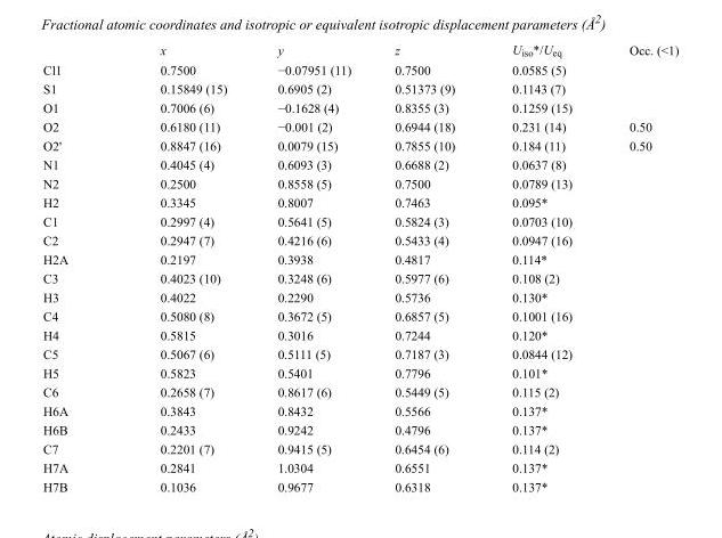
<table><thead><tr><td></td><td>x</td><td>y</td><td>z</td><td>U<sub>iso</sub>*/U<sub>eq</sub></td><td>Occ. (&lt;1)</td></tr></thead><tbody><tr><td>Cl1</td><td>0.7500</td><td>−0.07951 (11)</td><td>0.7500</td><td>0.0585 (5)</td><td></td></tr><tr><td>S1</td><td>0.15849 (15)</td><td>0.6905 (2)</td><td>0.51373 (9)</td><td>0.1143 (7)</td><td></td></tr><tr><td>O1</td><td>0.7006 (6)</td><td>−0.1628 (4)</td><td>0.8355 (3)</td><td>0.1259 (15)</td><td></td></tr><tr><td>O2</td><td>0.6180 (11)</td><td>−0.001 (2)</td><td>0.6944 (18)</td><td>0.231 (14)</td><td>0.50</td></tr><tr><td>O2&#x27;</td><td>0.8847 (16)</td><td>0.0079 (15)</td><td>0.7855 (10)</td><td>0.184 (11)</td><td>0.50</td></tr><tr><td>N1</td><td>0.4045 (4)</td><td>0.6093 (3)</td><td>0.6688 (2)</td><td>0.0637 (8)</td><td></td></tr><tr><td>N2</td><td>0.2500</td><td>0.8558 (5)</td><td>0.7500</td><td>0.0789 (13)</td><td></td></tr><tr><td>H2</td><td>0.3345</td><td>0.8007</td><td>0.7463</td><td>0.095*</td><td></td></tr><tr><td>C1</td><td>0.2997 (4)</td><td>0.5641 (5)</td><td>0.5824 (3)</td><td>0.0703 (10)</td><td></td></tr><tr><td>C2</td><td>0.2947 (7)</td><td>0.4216 (6)</td><td>0.5433 (4)</td><td>0.0947 (16)</td><td></td></tr><tr><td>H2A</td><td>0.2197</td><td>0.3938</td><td>0.4817</td><td>0.114*</td><td></td></tr><tr><td>C3</td><td>0.4023 (10)</td><td>0.3248 (6)</td><td>0.5977 (6)</td><td>0.108 (2)</td><td></td></tr><tr><td>H3</td><td>0.4022</td><td>0.2290</td><td>0.5736</td><td>0.130*</td><td></td></tr><tr><td>C4</td><td>0.5080 (8)</td><td>0.3672 (5)</td><td>0.6857 (5)</td><td>0.1001 (16)</td><td></td></tr><tr><td>H4</td><td>0.5815</td><td>0.3016</td><td>0.7244</td><td>0.120*</td><td></td></tr><tr><td>C5</td><td>0.5067 (6)</td><td>0.5111 (5)</td><td>0.7187 (3)</td><td>0.0844 (12)</td><td></td></tr><tr><td>H5</td><td>0.5823</td><td>0.5401</td><td>0.7796</td><td>0.101*</td><td></td></tr><tr><td>C6</td><td>0.2658 (7)</td><td>0.8617 (6)</td><td>0.5449 (5)</td><td>0.115 (2)</td><td></td></tr><tr><td>H6A</td><td>0.3843</td><td>0.8432</td><td>0.5566</td><td>0.137*</td><td></td></tr><tr><td>H6B</td><td>0.2433</td><td>0.9242</td><td>0.4796</td><td>0.137*</td><td></td></tr><tr><td>C7</td><td>0.2201 (7)</td><td>0.9415 (5)</td><td>0.6454 (6)</td><td>0.114 (2)</td><td></td></tr><tr><td>H7A</td><td>0.2841</td><td>1.0304</td><td>0.6551</td><td>0.137*</td><td></td></tr><tr><td>H7B</td><td>0.1036</td><td>0.9677</td><td>0.6318</td><td>0.137*</td><td></td></tr></tbody></table>